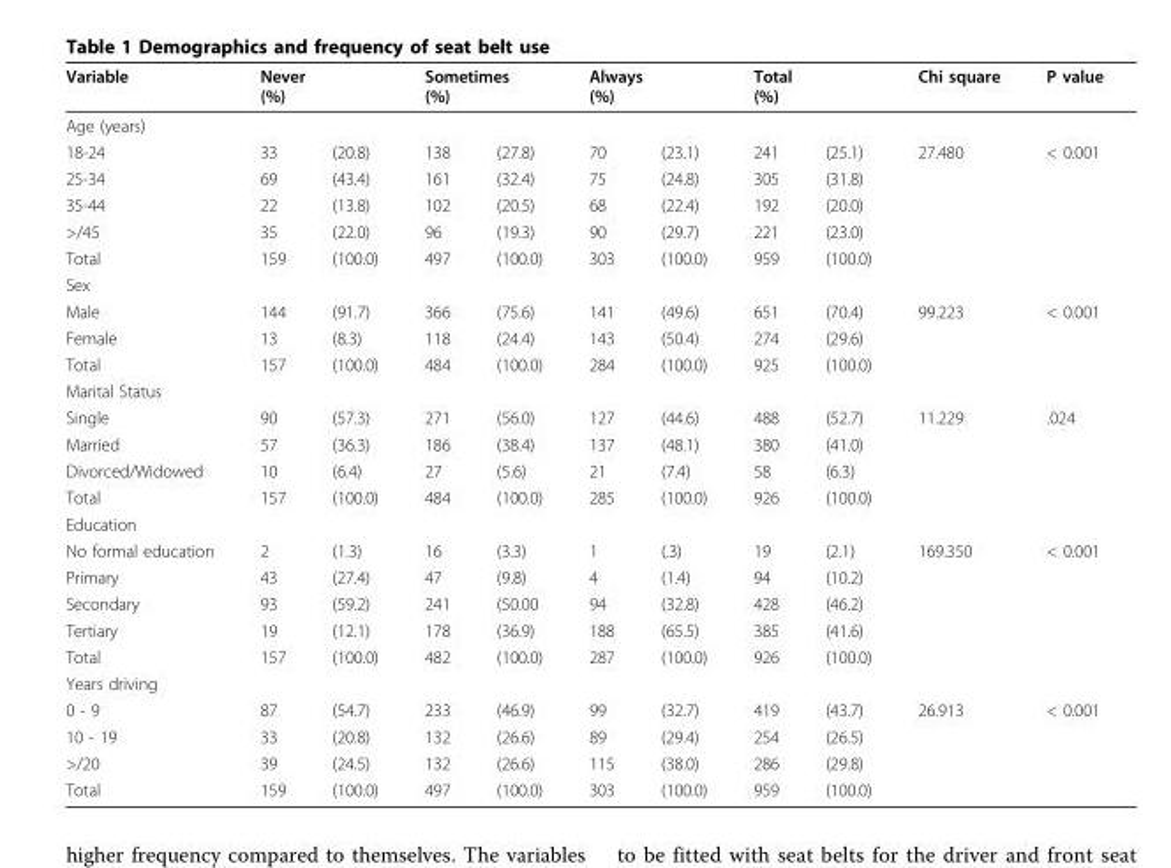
<table><thead><tr><td rowspan="2">Variable Age (years)</td><td colspan="2">Never (%)</td><td colspan="2">Sometimes (%)</td><td colspan="2">Always (%)</td><td colspan="2">Total (%)</td><td rowspan="2">Chi square</td><td rowspan="2">P value</td></tr><tr><td></td><td></td><td></td><td></td><td></td><td></td><td></td><td></td></tr></thead><tbody><tr><td>18-24</td><td>33</td><td>(20.8)</td><td>138</td><td>(27.8)</td><td>70</td><td>(23.1)</td><td>241</td><td>(25.1)</td><td>27.480</td><td>&lt; 0.001</td></tr><tr><td>25-34</td><td>69</td><td>(43.4)</td><td>161</td><td>(32.4)</td><td>75</td><td>(24.8)</td><td>305</td><td>(31.8)</td><td></td><td></td></tr><tr><td>35-44</td><td>22</td><td>(13.8)</td><td>102</td><td>(20.5)</td><td>68</td><td>(22.4)</td><td>192</td><td>(20.0)</td><td></td><td></td></tr><tr><td>&gt;/45</td><td>35</td><td>(22.0)</td><td>96</td><td>(19.3)</td><td>90</td><td>(29.7)</td><td>221</td><td>(23.0)</td><td></td><td></td></tr><tr><td>Total</td><td>159</td><td>(100.0)</td><td>497</td><td>(100.0)</td><td>303</td><td>(100.0)</td><td>959</td><td>(100.0)</td><td></td><td></td></tr><tr><td colspan="11">Sex</td></tr><tr><td>Male</td><td>144</td><td>(91.7)</td><td>366</td><td>(75.6)</td><td>141</td><td>(49.6)</td><td>651</td><td>(70.4)</td><td>99.223</td><td>&lt; 0.001</td></tr><tr><td>Female</td><td>13</td><td>(8.3)</td><td>118</td><td>(24.4)</td><td>143</td><td>(50.4)</td><td>274</td><td>(29.6)</td><td></td><td></td></tr><tr><td>Total</td><td>157</td><td>(100.0)</td><td>484</td><td>(100.0)</td><td>284</td><td>(100.0)</td><td>925</td><td>(100.0)</td><td></td><td></td></tr><tr><td colspan="11">Marital Status</td></tr><tr><td>Single</td><td>90</td><td>(57.3)</td><td>271</td><td>(56.0)</td><td>127</td><td>(44.6)</td><td>488</td><td>(52.7)</td><td>11.229</td><td>.024</td></tr><tr><td>Married</td><td>57</td><td>(36.3)</td><td>186</td><td>(38.4)</td><td>137</td><td>(48.1)</td><td>380</td><td>(41.0)</td><td></td><td></td></tr><tr><td>Divorced/Widowed</td><td>10</td><td>(6.4)</td><td>27</td><td>(5.6)</td><td>21</td><td>(7.4)</td><td>58</td><td>(6.3)</td><td></td><td></td></tr><tr><td>Total</td><td>157</td><td>(100.0)</td><td>484</td><td>(100.0)</td><td>285</td><td>(100.0)</td><td>926</td><td>(100.0)</td><td></td><td></td></tr><tr><td colspan="11">Education</td></tr><tr><td>No formal education</td><td>2</td><td>(1.3)</td><td>16</td><td>(3.3)</td><td>1</td><td>(.3)</td><td>19</td><td>(2.1)</td><td>169.350</td><td>&lt; 0.001</td></tr><tr><td>Primary</td><td>43</td><td>(27.4)</td><td>47</td><td>(9.8)</td><td>4</td><td>(1.4)</td><td>94</td><td>(10.2)</td><td></td><td></td></tr><tr><td>Secondary</td><td>93</td><td>(59.2)</td><td>241</td><td>(50.00</td><td>94</td><td>(32.8)</td><td>428</td><td>(46.2)</td><td></td><td></td></tr><tr><td>Tertiary</td><td>19</td><td>(12.1)</td><td>178</td><td>(36.9)</td><td>188</td><td>(65.5)</td><td>385</td><td>(41.6)</td><td></td><td></td></tr><tr><td>Total</td><td>157</td><td>(100.0)</td><td>482</td><td>(100.0)</td><td>287</td><td>(100.0)</td><td>926</td><td>(100.0)</td><td></td><td></td></tr><tr><td colspan="11">Years driving</td></tr><tr><td>0 - 9</td><td>87</td><td>(54.7)</td><td>233</td><td>(46.9)</td><td>99</td><td>(32.7)</td><td>419</td><td>(43.7)</td><td>26.913</td><td>&lt; 0.001</td></tr><tr><td>10 - 19</td><td>33</td><td>(20.8)</td><td>132</td><td>(26.6)</td><td>89</td><td>(29.4)</td><td>254</td><td>(26.5)</td><td></td><td></td></tr><tr><td>&gt;/20</td><td>39</td><td>(24.5)</td><td>132</td><td>(26.6)</td><td>115</td><td>(38.0)</td><td>286</td><td>(29.8)</td><td></td><td></td></tr><tr><td>Total</td><td>159</td><td>(100.0)</td><td>497</td><td>(100.0)</td><td>303</td><td>(100.0)</td><td>959</td><td>(100.0)</td><td></td><td></td></tr></tbody></table>